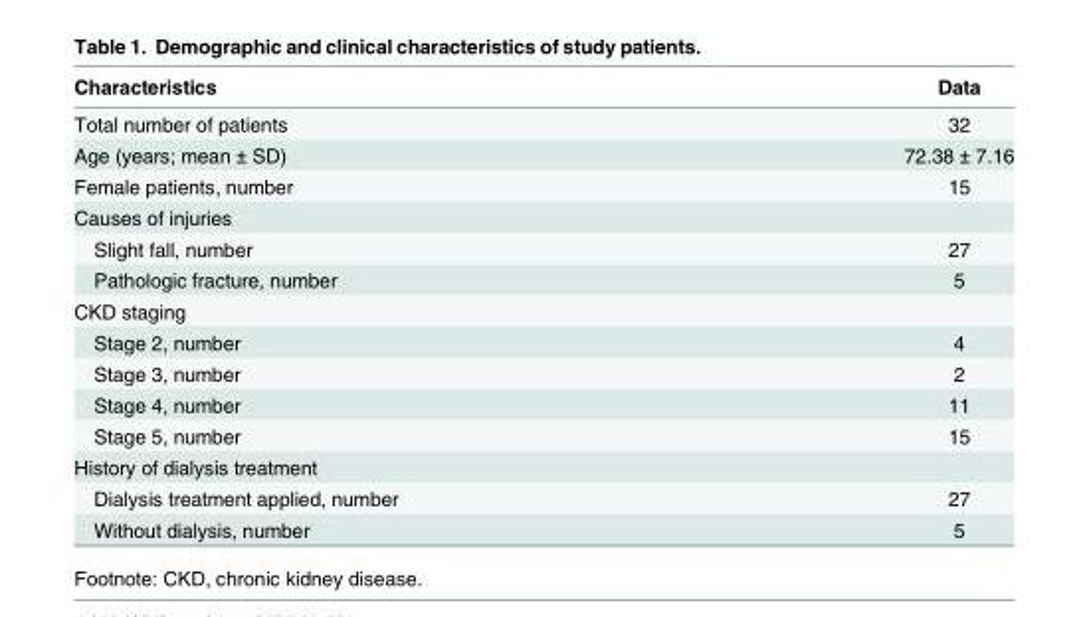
<table><thead><tr><td>Characteristics</td><td>Data</td></tr></thead><tbody><tr><td>Total number of patients</td><td>32</td></tr><tr><td>Age (years; mean ± SD)</td><td>72.38 ± 7.16</td></tr><tr><td>Female patients, number</td><td>15</td></tr><tr><td colspan="2">Causes of injuries</td></tr><tr><td>Slight fall, number</td><td>27</td></tr><tr><td>Pathologic fracture, number</td><td>5</td></tr><tr><td colspan="2">CKD staging</td></tr><tr><td>Stage 2, number</td><td>4</td></tr><tr><td>Stage 3, number</td><td>2</td></tr><tr><td>Stage 4, number</td><td>11</td></tr><tr><td>Stage 5, number</td><td>15</td></tr><tr><td colspan="2">History of dialysis treatment</td></tr><tr><td>Dialysis treatment applied, number</td><td>27</td></tr><tr><td>Without dialysis, number</td><td>5</td></tr></tbody></table>